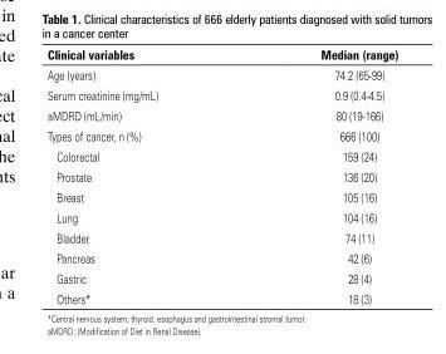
<table><thead><tr><td>Clinical variables</td><td>Median (range)</td></tr></thead><tbody><tr><td>Age (years)</td><td>74.2 (65-99)</td></tr><tr><td>Serum creatinine (mg/mL)</td><td>0.9 (0.4-4.5)</td></tr><tr><td>aMDRD (mL/min)</td><td>80 (19-166)</td></tr><tr><td>Types of cancer, n (%)</td><td>666 (100)</td></tr><tr><td>Colorectal</td><td>159 (24)</td></tr><tr><td>Prostate</td><td>136 (20)</td></tr><tr><td>Breast</td><td>105 (16)</td></tr><tr><td>Lung</td><td>104 (16)</td></tr><tr><td>Bladder</td><td>74 (11)</td></tr><tr><td>Pancreas</td><td>42 (6)</td></tr><tr><td>Gastric</td><td>28 (4)</td></tr><tr><td>Others*</td><td>18 (3)</td></tr></tbody></table>